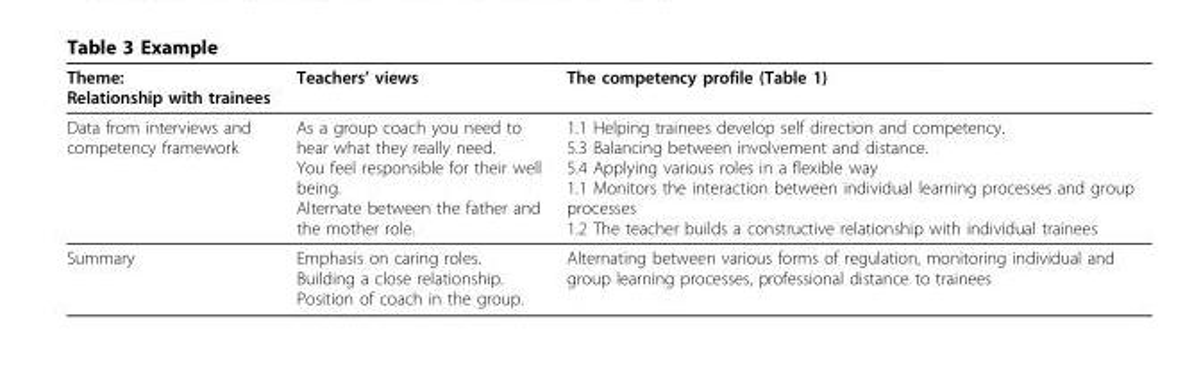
<table><thead><tr><td>Theme: Relationship with trainees</td><td>Teachers’ views</td><td>The competency profile (Table 1)</td></tr></thead><tbody><tr><td>Data from interviews and competency framework</td><td>As a group coach you need to hear what they really need. You feel responsible for their well being. Alternate between the father and the mother role.</td><td>1.1 Helping trainees develop self direction and competency. 5.3 Balancing between involvement and distance. 5.4 Applying various roles in a flexible way 1.1 Monitors the interaction between individual learning processes and group processes 1.2 The teacher builds a constructive relationship with individual trainees</td></tr><tr><td>Summary</td><td>Emphasis on caring roles. Building a close relationship. Position of coach in the group.</td><td>Alternating between various forms of regulation, monitoring individual and group learning processes, professional distance to trainees</td></tr></tbody></table>